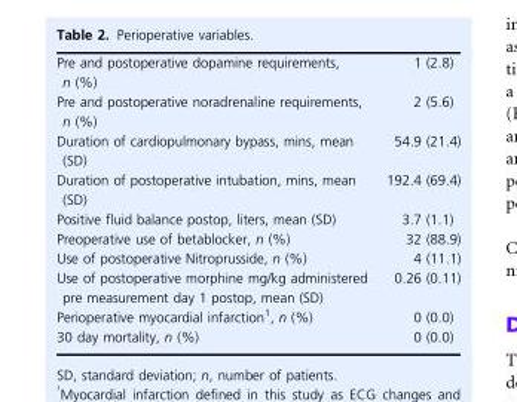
<table><tbody><tr><td>Pre and postoperative dopamine requirements, n (%)</td><td>1 (2.8)</td></tr><tr><td>Pre and postoperative noradrenaline requirements, n (%)</td><td>2 (5.6)</td></tr><tr><td>Duration of cardiopulmonary bypass, mins, mean (SD)</td><td>54.9 (21.4)</td></tr><tr><td>Duration of postoperative intubation, mins, mean (SD)</td><td>192.4 (69.4)</td></tr><tr><td>Positive fluid balance postop, liters, mean (SD)</td><td>3.7 (1.1)</td></tr><tr><td>Preoperative use of betablocker, n (%)</td><td>32 (88.9)</td></tr><tr><td>Use of postoperative Nitroprusside, n (%)</td><td>4 (11.1)</td></tr><tr><td>Use of postoperative morphine mg/kg administered pre measurement day 1 postop, mean (SD)</td><td>0.26 (0.11)</td></tr><tr><td>Perioperative myocardial infarction1, n (%)</td><td>0 (0.0)</td></tr><tr><td>30 day mortality, n (%)</td><td>0 (0.0)</td></tr></tbody></table>